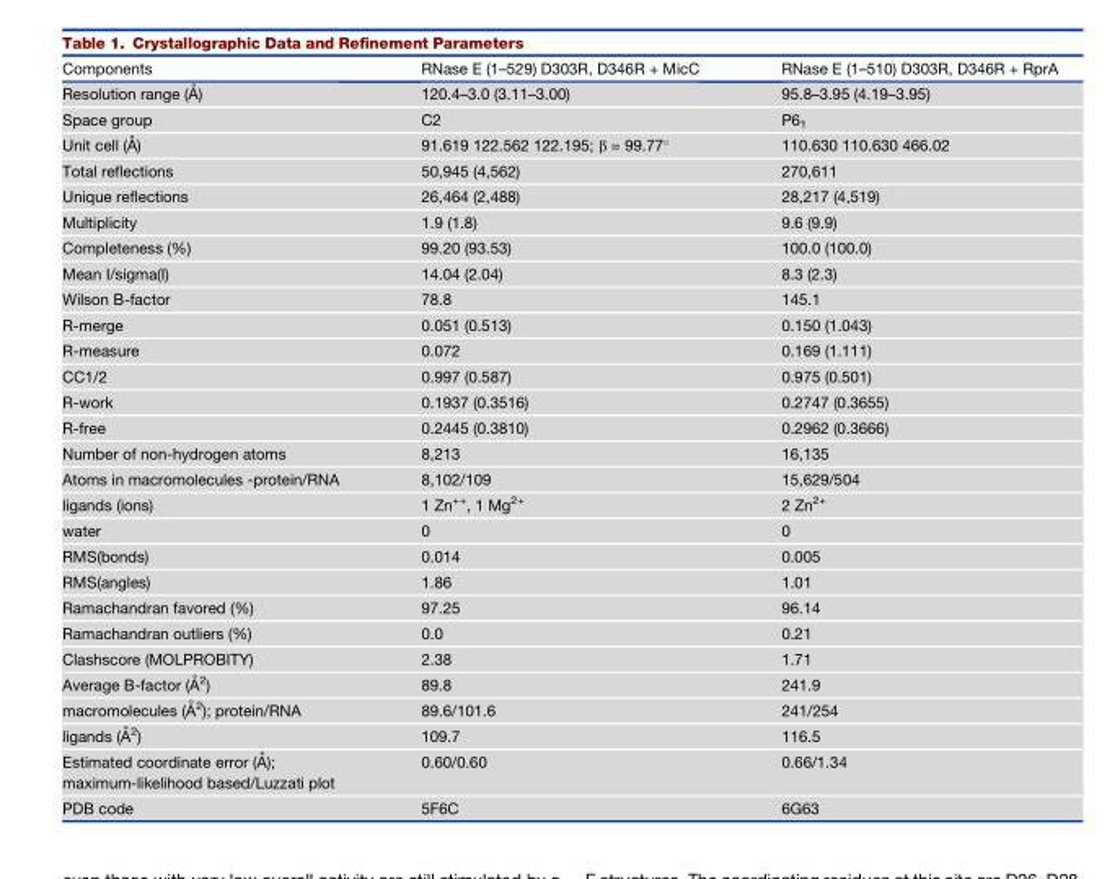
<table><thead><tr><td>Components</td><td>RNase E (1–529) D303R, D346R + MicC</td><td>RNase E (1–510) D303R, D346R + RprA</td></tr></thead><tbody><tr><td>Resolution range (A˚ )</td><td>120.4–3.0 (3.11–3.00)</td><td>95.8–3.95 (4.19–3.95)</td></tr><tr><td>Space group</td><td>C2</td><td>P6<sub>1</sub></td></tr><tr><td>Unit cell (A˚ )</td><td>91.619 122.562 122.195; β = 99.77°</td><td>110.630 110.630 466.02</td></tr><tr><td>Total reflections</td><td>50,945 (4,562)</td><td>270,611</td></tr><tr><td>Unique reflections</td><td>26,464 (2,488)</td><td>28,217 (4,519)</td></tr><tr><td>Multiplicity</td><td>1.9 (1.8)</td><td>9.6 (9.9)</td></tr><tr><td>Completeness (%)</td><td>99.20 (93.53)</td><td>100.0 (100.0)</td></tr><tr><td>Mean I/sigma(I)</td><td>14.04 (2.04)</td><td>8.3 (2.3)</td></tr><tr><td>Wilson B-factor</td><td>78.8</td><td>145.1</td></tr><tr><td>R-merge</td><td>0.051 (0.513)</td><td>0.150 (1.043)</td></tr><tr><td>R-measure</td><td>0.072</td><td>0.169 (1.111)</td></tr><tr><td>CC1/2</td><td>0.997 (0.587)</td><td>0.975 (0.501)</td></tr><tr><td>R-work</td><td>0.1937 (0.3516)</td><td>0.2747 (0.3655)</td></tr><tr><td>R-free</td><td>0.2445 (0.3810)</td><td>0.2962 (0.3666)</td></tr><tr><td>Number of non-hydrogen atoms</td><td>8,213</td><td>16,135</td></tr><tr><td>Atoms in macromolecules -protein/RNA</td><td>8,102/109</td><td>15,629/504</td></tr><tr><td>ligands (ions)</td><td>1 Zn<sup>++</sup>, 1 Mg<sup>2+</sup></td><td>2 Zn<sup>2+</sup></td></tr><tr><td>water</td><td>0</td><td>0</td></tr><tr><td>RMS(bonds)</td><td>0.014</td><td>0.005</td></tr><tr><td>RMS(angles)</td><td>1.86</td><td>1.01</td></tr><tr><td>Ramachandran favored (%)</td><td>97.25</td><td>96.14</td></tr><tr><td>Ramachandran outliers (%)</td><td>0.0</td><td>0.21</td></tr><tr><td>Clashscore (MOLPROBITY)</td><td>2.38</td><td>1.71</td></tr><tr><td>Average B-factor (A˚ 2)</td><td>89.8</td><td>241.9</td></tr><tr><td>macromolecules (A˚ 2); protein/RNA</td><td>89.6/101.6</td><td>241/254</td></tr><tr><td>ligands (A˚ 2)</td><td>109.7</td><td>116.5</td></tr><tr><td>Estimated coordinate error (A˚ ); maximum-likelihood based/Luzzati plot</td><td>0.60/0.60</td><td>0.66/1.34</td></tr><tr><td>PDB code</td><td>5F6C</td><td>6G63</td></tr></tbody></table>